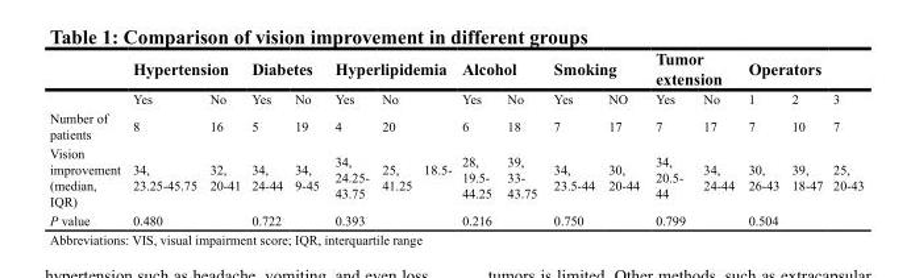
<table><thead><tr><td rowspan="2"></td><td colspan="2">Hypertension</td><td colspan="2">Diabetes</td><td colspan="2">Hyperlipidemia</td><td colspan="2">Alcohol</td><td colspan="2">Smoking</td><td colspan="2">Tumor extension</td><td colspan="3">Operators</td></tr><tr><td>Yes</td><td>No</td><td>Yes</td><td>No</td><td>Yes</td><td>No</td><td>Yes</td><td>No</td><td>Yes</td><td>NO</td><td>Yes</td><td>No</td><td>1</td><td>2</td><td>3</td></tr></thead><tbody><tr><td>Number of patients</td><td>8</td><td>16</td><td>5</td><td>19</td><td>4</td><td>20</td><td>6</td><td>18</td><td>7</td><td>17</td><td>7</td><td>17</td><td>7</td><td>10</td><td>7</td></tr><tr><td>Vision improvement (median, IQR)</td><td>34, 23.25-45.75</td><td>32, 20-41</td><td>34, 24-44</td><td>34, 9-45</td><td>34, 24.25- 43.75</td><td>25, 18.5- 41.25</td><td>28, 19.5- 44.25</td><td>39, 33- 43.75</td><td>34, 23.5-44</td><td>30, 20-44</td><td>34, 20.5- 44</td><td>34, 24-44</td><td>30, 26-43</td><td>39, 18-47</td><td>25, 20-43</td></tr><tr><td>P value</td><td colspan="2">0.480</td><td colspan="2">0.722</td><td colspan="2">0.393</td><td colspan="2">0.216</td><td colspan="2">0.750</td><td colspan="2">0.799</td><td colspan="3">0.504</td></tr></tbody></table>